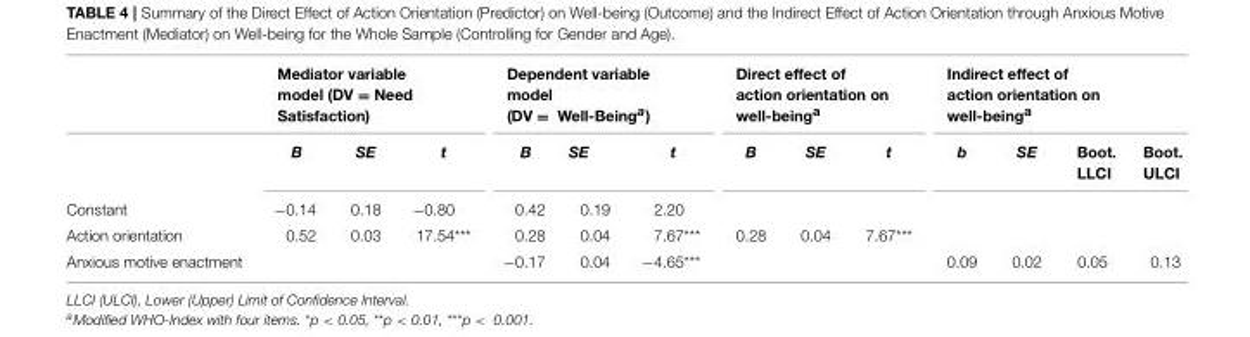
<table><thead><tr><td rowspan="2"></td><td colspan="3">Mediator variable model (DV = Need Satisfaction)</td><td colspan="3">Dependent variable model (DV = Well-Beinga)</td><td colspan="3">Direct effect of action orientation on well-beinga</td><td colspan="4">Indirect effect of action orientation on well-beinga</td></tr><tr><td>B</td><td>SE</td><td>t</td><td>B</td><td>SE</td><td>t</td><td>B</td><td>SE</td><td>t</td><td>b</td><td>SE</td><td>Boot. LLCI</td><td>Boot. ULCI</td></tr></thead><tbody><tr><td>Constant</td><td>−0.14</td><td>0.18</td><td>−0.80</td><td>0.42</td><td>0.19</td><td>2.20</td><td></td><td></td><td></td><td></td><td></td><td></td><td></td></tr><tr><td>Action orientation</td><td>0.52</td><td>0.03</td><td>17.54***</td><td>0.28</td><td>0.04</td><td>7.67***</td><td>0.28</td><td>0.04</td><td>7.67***</td><td></td><td></td><td></td><td></td></tr><tr><td>Anxious motive enactment</td><td></td><td></td><td></td><td>−0.17</td><td>0.04</td><td>−4.65***</td><td></td><td></td><td></td><td>0.09</td><td>0.02</td><td>0.05</td><td>0.13</td></tr></tbody></table>